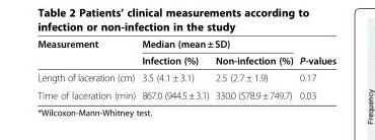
<table><thead><tr><td rowspan="2">Measurement</td><td colspan="2">Median (mean ± SD)</td><td rowspan="2">P-values</td></tr><tr><td>Infection (%)</td><td>Non-infection (%)</td></tr></thead><tbody><tr><td>Length of laceration (cm)</td><td>3.5 (4.1 ± 3.1)</td><td>2.5 (2.7 ± 1.9)</td><td>0.17</td></tr><tr><td>Time of laceration (min)</td><td>867.0 (944.5±3.1)</td><td>330.0 (578.9±749.7)</td><td>0.03</td></tr></tbody></table>